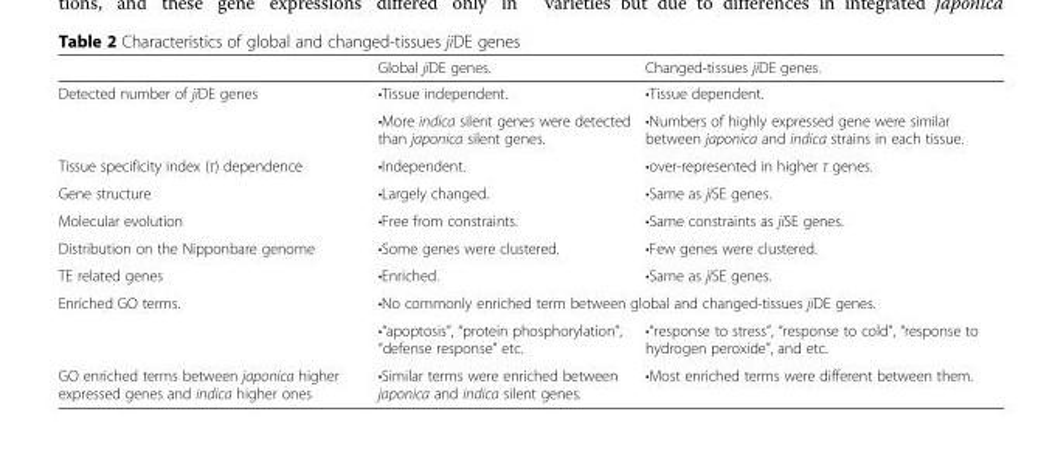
<table><thead><tr><td></td><td>Global jiDE genes.</td><td>Changed-tissues jiDE genes.</td></tr></thead><tbody><tr><td rowspan="2">Detected number of jiDE genes</td><td>•Tissue independent.</td><td>•Tissue dependent.</td></tr><tr><td>•More indica silent genes were detected than japonica silent genes.</td><td>•Numbers of highly expressed gene were similar between japonica and indica strains in each tissue.</td></tr><tr><td>Tissue specificity index (τ) dependence</td><td>•Independent.</td><td>•over-represented in higher τ genes.</td></tr><tr><td>Gene structure</td><td>•Largely changed.</td><td>•Same as jiSE genes.</td></tr><tr><td>Molecular evolution</td><td>•Free from constraints.</td><td>•Same constraints as jiSE genes.</td></tr><tr><td>Distribution on the Nipponbare genome</td><td>•Some genes were clustered.</td><td>•Few genes were clustered.</td></tr><tr><td>TE related genes</td><td>•Enriched.</td><td>•Same as jiSE genes.</td></tr><tr><td rowspan="2">Enriched GO terms.</td><td colspan="2">•No commonly enriched term between global and changed-tissues jiDE genes.</td></tr><tr><td>•“apoptosis”, “protein phosphorylation”, “defense response” etc.</td><td>•“response to stress”, “response to cold”, “response to hydrogen peroxide”, and etc.</td></tr><tr><td>GO enriched terms between japonica higher expressed genes and indica higher ones</td><td>•Similar terms were enriched between japonica and indica silent genes.</td><td>•Most enriched terms were different between them.</td></tr></tbody></table>